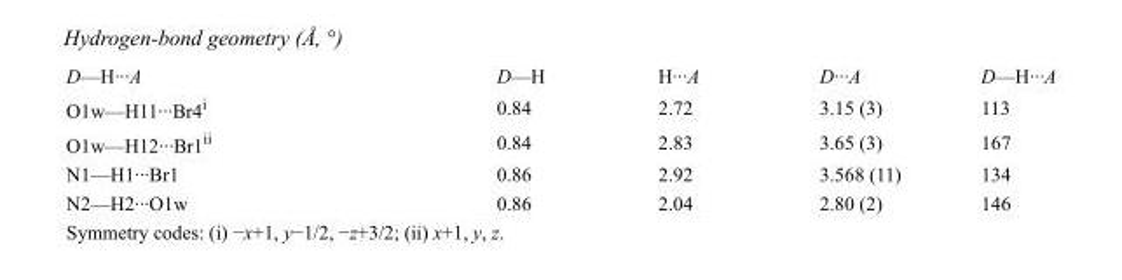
<table><tbody><tr><td>D—H···A</td><td>D—H</td><td>H···A</td><td>D···A</td><td>D—H···A</td></tr><tr><td>O1w—H11···Br4<sup>i</sup></td><td>0.84</td><td>2.72</td><td>3.15 (3)</td><td>113</td></tr><tr><td>O1w—H12···Br1<sup>ii</sup></td><td>0.84</td><td>2.83</td><td>3.65 (3)</td><td>167</td></tr><tr><td>N1—H1···Br1</td><td>0.86</td><td>2.92</td><td>3.568 (11)</td><td>134</td></tr><tr><td>N2—H2···O1w</td><td>0.86</td><td>2.04</td><td>2.80 (2)</td><td>146</td></tr></tbody></table>